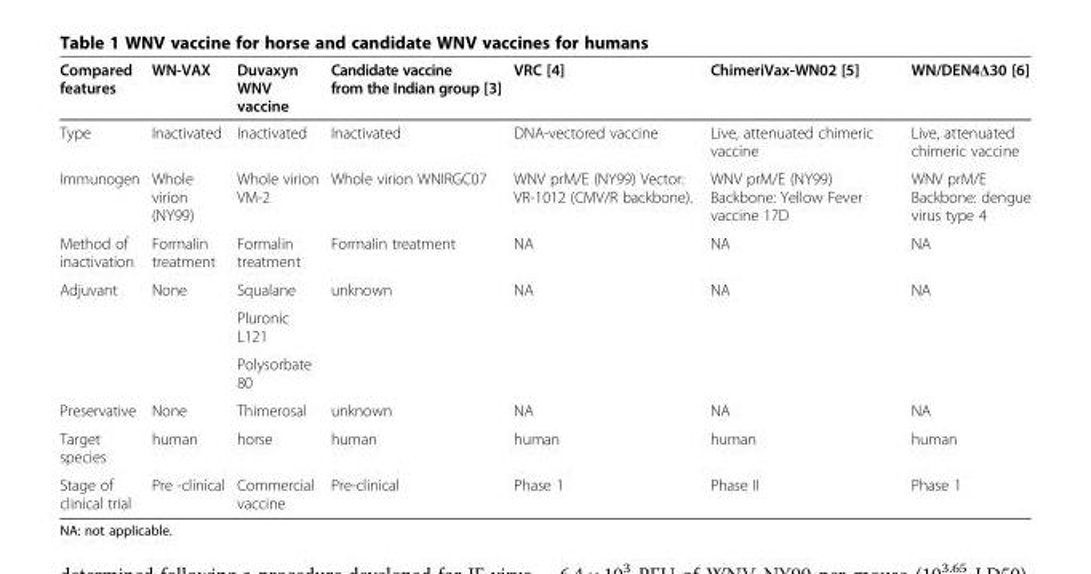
<table><thead><tr><td>Compared features</td><td>WN-VAX</td><td>Duvaxyn WNV vaccine</td><td>Candidate vaccine from the Indian group [3]</td><td>VRC [4]</td><td>ChimeriVax-WN02 [5]</td><td>WN/DEN4Δ30 [6]</td></tr></thead><tbody><tr><td>Type</td><td>Inactivated</td><td>Inactivated</td><td>Inactivated</td><td>DNA-vectored vaccine</td><td>Live, attenuated chimeric vaccine</td><td>Live, attenuated chimeric vaccine</td></tr><tr><td>Immunogen</td><td>Whole virion (NY99)</td><td>Whole virion VM-2</td><td>Whole virion WNIRGC07</td><td>WNV prM/E (NY99) Vector: VR-1012 (CMV/R backbone).</td><td>WNV prM/E (NY99) Backbone: Yellow Fever vaccine 17D</td><td>WNV prM/E Backbone: dengue virus type 4</td></tr><tr><td>Method of inactivation</td><td>Formalin treatment</td><td>Formalin treatment</td><td>Formalin treatment</td><td>NA</td><td>NA</td><td>NA</td></tr><tr><td rowspan="3">Adjuvant</td><td rowspan="3">None</td><td>Squalane</td><td rowspan="3">unknown</td><td rowspan="3">NA</td><td rowspan="3">NA</td><td rowspan="3">NA</td></tr><tr><td>Pluronic L121</td></tr><tr><td>Polysorbate 80</td></tr><tr><td>Preservative</td><td>None</td><td>Thimerosal</td><td>unknown</td><td>NA</td><td>NA</td><td>NA</td></tr><tr><td>Target species</td><td>human</td><td>horse</td><td>human</td><td>human</td><td>human</td><td>human</td></tr><tr><td>Stage of clinical trial</td><td>Pre -clinical</td><td>Commercial vaccine</td><td>Pre-clinical</td><td>Phase 1</td><td>Phase II</td><td>Phase 1</td></tr></tbody></table>